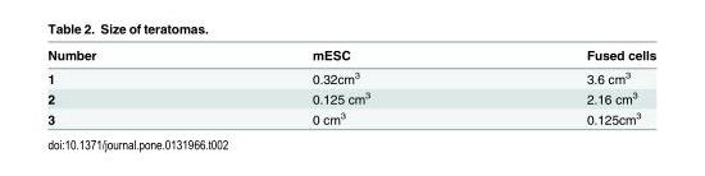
<table><thead><tr><td>Number</td><td>mESC</td><td>Fused cells</td></tr></thead><tbody><tr><td>1</td><td>0.32cm<sup>3</sup></td><td>3.6 cm<sup>3</sup></td></tr><tr><td>2</td><td>0.125 cm<sup>3</sup></td><td>2.16 cm<sup>3</sup></td></tr><tr><td>3</td><td>0 cm<sup>3</sup></td><td>0.125cm<sup>3</sup></td></tr></tbody></table>